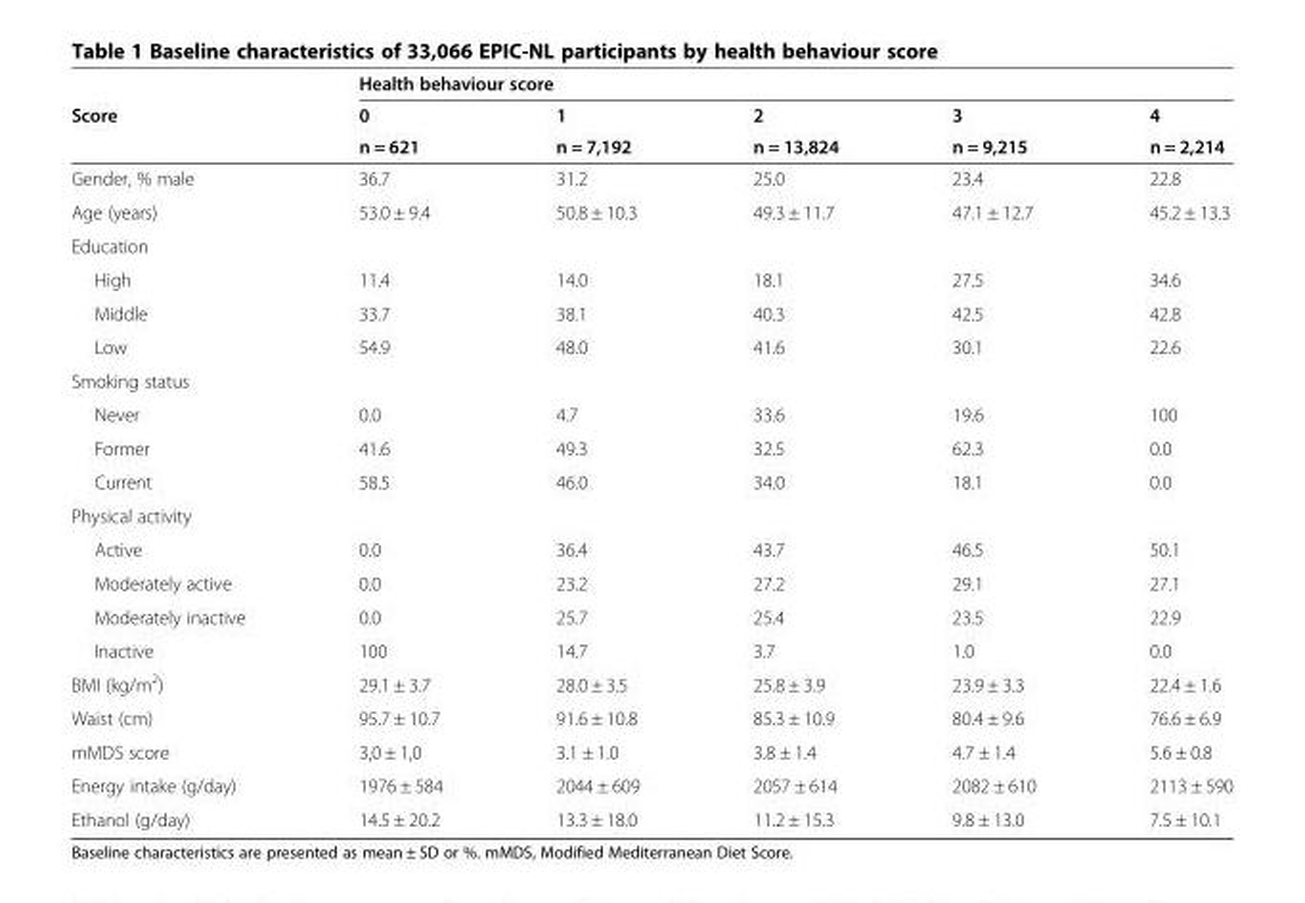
<table><thead><tr><td rowspan="3">Score</td><td colspan="5">Health behaviour score</td></tr><tr><td rowspan="2">0 n = 621</td><td rowspan="2">1 n = 7,192</td><td rowspan="2">2 n = 13,824</td><td rowspan="2">3 n = 9,215</td><td rowspan="2">4 n = 2,214</td></tr><tr></tr></thead><tbody><tr><td>Gender, % male</td><td>36.7</td><td>31.2</td><td>25.0</td><td>23.4</td><td>22.8</td></tr><tr><td>Age (years)</td><td>53.0 ± 9.4</td><td>50.8 ± 10.3</td><td>49.3 ± 11.7</td><td>47.1 ± 12.7</td><td>45.2 ± 13.3</td></tr><tr><td colspan="6">Education</td></tr><tr><td>High</td><td>11.4</td><td>14.0</td><td>18.1</td><td>27.5</td><td>34.6</td></tr><tr><td>Middle</td><td>33.7</td><td>38.1</td><td>40.3</td><td>42.5</td><td>42.8</td></tr><tr><td>Low</td><td>54.9</td><td>48.0</td><td>41.6</td><td>30.1</td><td>22.6</td></tr><tr><td colspan="6">Smoking status</td></tr><tr><td>Never</td><td>0.0</td><td>4.7</td><td>33.6</td><td>19.6</td><td>100</td></tr><tr><td>Former</td><td>41.6</td><td>49.3</td><td>32.5</td><td>62.3</td><td>0.0</td></tr><tr><td>Current</td><td>58.5</td><td>46.0</td><td>34.0</td><td>18.1</td><td>0.0</td></tr><tr><td colspan="6">Physical activity</td></tr><tr><td>Active</td><td>0.0</td><td>36.4</td><td>43.7</td><td>46.5</td><td>50.1</td></tr><tr><td>Moderately active</td><td>0.0</td><td>23.2</td><td>27.2</td><td>29.1</td><td>27.1</td></tr><tr><td>Moderately inactive</td><td>0.0</td><td>25.7</td><td>25.4</td><td>23.5</td><td>22.9</td></tr><tr><td>Inactive</td><td>100</td><td>14.7</td><td>3.7</td><td>1.0</td><td>0.0</td></tr><tr><td>BMI (kg/m<sup>2</sup>)</td><td>29.1 ± 3.7</td><td>28.0 ± 3.5</td><td>25.8 ± 3.9</td><td>23.9 ± 3.3</td><td>22.4 ± 1.6</td></tr><tr><td>Waist (cm)</td><td>95.7 ± 10.7</td><td>91.6 ± 10.8</td><td>85.3 ± 10.9</td><td>80.4 ± 9.6</td><td>76.6 ± 6.9</td></tr><tr><td>mMDS score</td><td>3,0 ± 1,0</td><td>3.1 ± 1.0</td><td>3.8 ± 1.4</td><td>4.7 ± 1.4</td><td>5.6 ± 0.8</td></tr><tr><td>Energy intake (g/day)</td><td>1976 ± 584</td><td>2044 ± 609</td><td>2057 ± 614</td><td>2082 ± 610</td><td>2113 ± 590</td></tr><tr><td>Ethanol (g/day)</td><td>14.5 ± 20.2</td><td>13.3 ± 18.0</td><td>11.2 ± 15.3</td><td>9.8 ± 13.0</td><td>7.5 ± 10.1</td></tr></tbody></table>